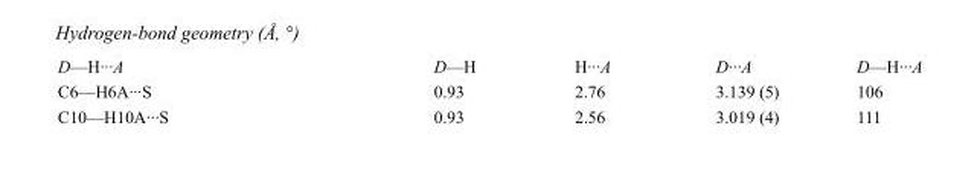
<table><tbody><tr><td>D—H···A</td><td>D—H</td><td>H···A</td><td>D···A</td><td>D—H···A</td></tr><tr><td>C6—H6A···S</td><td>0.93</td><td>2.76</td><td>3.139 (5)</td><td>106</td></tr><tr><td>C10—H10A···S</td><td>0.93</td><td>2.56</td><td>3.019 (4)</td><td>111</td></tr></tbody></table>